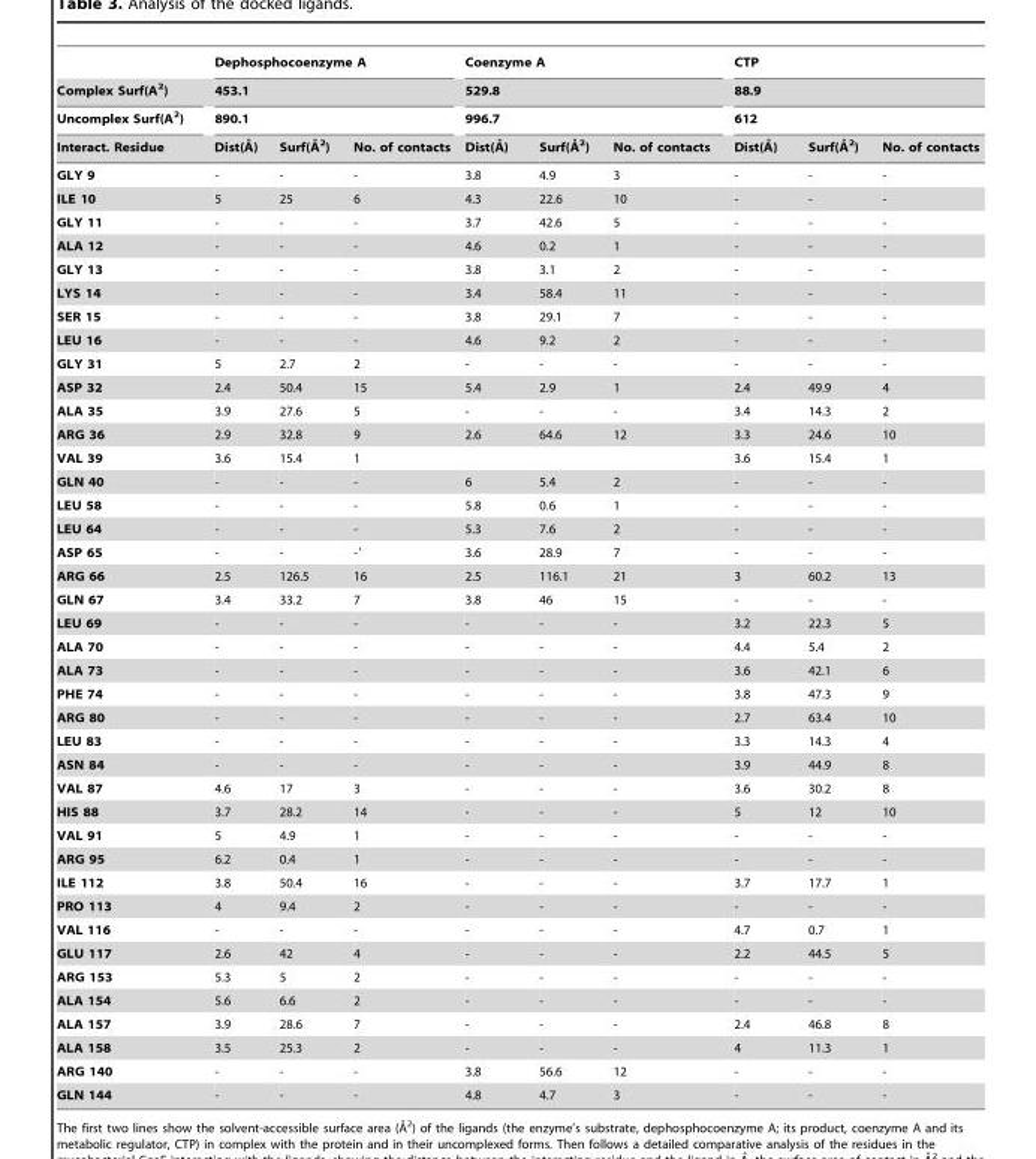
<table><thead><tr><td rowspan="4">Complex Surf(A<sup>2</sup>) Uncomplex Surf(A<sup>2</sup>) Interact. Residue</td><td rowspan="3" colspan="3">Dephosphocoenzyme A 453.1 890.1</td><td rowspan="3" colspan="3">Coenzyme A 529.8 996.7</td><td rowspan="3" colspan="3">CTP 88.9 612</td></tr><tr></tr><tr></tr><tr><td>Dist(A˚ )</td><td>Surf(A˚ 2)</td><td>No. of contacts</td><td>Dist(A˚)</td><td>Surf(A˚ 2)</td><td>No. of contacts</td><td>Dist(A˚ )</td><td>Surf(A˚ 2)</td><td>No. of contacts</td></tr></thead><tbody><tr><td>GLY 9</td><td>-</td><td>-</td><td>-</td><td>3.8</td><td>4.9</td><td>3</td><td>-</td><td>-</td><td>-</td></tr><tr><td>ILE 10</td><td>5</td><td>25</td><td>6</td><td>4.3</td><td>22.6</td><td>10</td><td>-</td><td>-</td><td>-</td></tr><tr><td>GLY 11</td><td>-</td><td>-</td><td>-</td><td>3.7</td><td>42.6</td><td>5</td><td>-</td><td>-</td><td>-</td></tr><tr><td>ALA 12</td><td>-</td><td>-</td><td>-</td><td>4.6</td><td>0.2</td><td>1</td><td>-</td><td>-</td><td>-</td></tr><tr><td>GLY 13</td><td>-</td><td>-</td><td>-</td><td>3.8</td><td>3.1</td><td>2</td><td>-</td><td>-</td><td>-</td></tr><tr><td>LYS 14</td><td>-</td><td>-</td><td>-</td><td>3.4</td><td>58.4</td><td>11</td><td>-</td><td>-</td><td>-</td></tr><tr><td>SER 15</td><td>-</td><td>-</td><td>-</td><td>3.8</td><td>29.1</td><td>7</td><td>-</td><td>-</td><td>-</td></tr><tr><td>LEU 16</td><td>-</td><td>-</td><td>-</td><td>4.6</td><td>9.2</td><td>2</td><td>-</td><td>-</td><td>-</td></tr><tr><td>GLY 31</td><td>5</td><td>2.7</td><td>2</td><td>-</td><td>-</td><td>-</td><td>-</td><td>-</td><td>-</td></tr><tr><td>ASP 32</td><td>2.4</td><td>50.4</td><td>15</td><td>5.4</td><td>2.9</td><td>1</td><td>2.4</td><td>49.9</td><td>4</td></tr><tr><td>ALA 35</td><td>3.9</td><td>27.6</td><td>5</td><td>-</td><td>-</td><td>-</td><td>3.4</td><td>14.3</td><td>2</td></tr><tr><td>ARG 36</td><td>2.9</td><td>32.8</td><td>9</td><td>2.6</td><td>64.6</td><td>12</td><td>3.3</td><td>24.6</td><td>10</td></tr><tr><td>VAL 39</td><td>3.6</td><td>15.4</td><td>1</td><td></td><td></td><td></td><td>3.6</td><td>15.4</td><td>1</td></tr><tr><td>GLN 40</td><td>-</td><td>-</td><td>-</td><td>6</td><td>5.4</td><td>2</td><td>-</td><td>-</td><td>-</td></tr><tr><td>LEU 58</td><td>-</td><td>-</td><td>-</td><td>5.8</td><td>0.6</td><td>1</td><td>-</td><td>-</td><td>-</td></tr><tr><td>LEU 64</td><td>-</td><td>-</td><td>-</td><td>5.3</td><td>7.6</td><td>2</td><td>-</td><td>-</td><td>-</td></tr><tr><td>ASP 65</td><td>-</td><td>-</td><td>-′</td><td>3.6</td><td>28.9</td><td>7</td><td>-</td><td>-</td><td>-</td></tr><tr><td>ARG 66</td><td>2.5</td><td>126.5</td><td>16</td><td>2.5</td><td>116.1</td><td>21</td><td>3</td><td>60.2</td><td>13</td></tr><tr><td>GLN 67</td><td>3.4</td><td>33.2</td><td>7</td><td>3.8</td><td>46</td><td>15</td><td>-</td><td>-</td><td>-</td></tr><tr><td>LEU 69</td><td>-</td><td>-</td><td>-</td><td>-</td><td>-</td><td>-</td><td>3.2</td><td>22.3</td><td>5</td></tr><tr><td>ALA 70</td><td>-</td><td>-</td><td>-</td><td>-</td><td>-</td><td>-</td><td>4.4</td><td>5.4</td><td>2</td></tr><tr><td>ALA 73</td><td>-</td><td>-</td><td>-</td><td>-</td><td>-</td><td>-</td><td>3.6</td><td>42.1</td><td>6</td></tr><tr><td>PHE 74</td><td>-</td><td>-</td><td>-</td><td>-</td><td>-</td><td>-</td><td>3.8</td><td>47.3</td><td>9</td></tr><tr><td>ARG 80</td><td>-</td><td>-</td><td>-</td><td>-</td><td>-</td><td>-</td><td>2.7</td><td>63.4</td><td>10</td></tr><tr><td>LEU 83</td><td>-</td><td>-</td><td>-</td><td>-</td><td>-</td><td>-</td><td>3.3</td><td>14.3</td><td>4</td></tr><tr><td>ASN 84</td><td>-</td><td>-</td><td>-</td><td>-</td><td>-</td><td>-</td><td>3.9</td><td>44.9</td><td>8</td></tr><tr><td>VAL 87</td><td>4.6</td><td>17</td><td>3</td><td>-</td><td>-</td><td>-</td><td>3.6</td><td>30.2</td><td>8</td></tr><tr><td>HIS 88</td><td>3.7</td><td>28.2</td><td>14</td><td>-</td><td>-</td><td>-</td><td>5</td><td>12</td><td>10</td></tr><tr><td>VAL 91</td><td>5</td><td>4.9</td><td>1</td><td>-</td><td>-</td><td>-</td><td>-</td><td>-</td><td>-</td></tr><tr><td>ARG 95</td><td>6.2</td><td>0.4</td><td>1</td><td>-</td><td>-</td><td>-</td><td>-</td><td>-</td><td>-</td></tr><tr><td>ILE 112</td><td>3.8</td><td>50.4</td><td>16</td><td>-</td><td>-</td><td>-</td><td>3.7</td><td>17.7</td><td>1</td></tr><tr><td>PRO 113</td><td>4</td><td>9.4</td><td>2</td><td>-</td><td>-</td><td>-</td><td>-</td><td>-</td><td>-</td></tr><tr><td>VAL 116</td><td>-</td><td>-</td><td>-</td><td>-</td><td>-</td><td>-</td><td>4.7</td><td>0.7</td><td>1</td></tr><tr><td>GLU 117</td><td>2.6</td><td>42</td><td>4</td><td>-</td><td>-</td><td>-</td><td>2.2</td><td>44.5</td><td>5</td></tr><tr><td>ARG 153</td><td>5.3</td><td>5</td><td>2</td><td>-</td><td>-</td><td>-</td><td>-</td><td>-</td><td>-</td></tr><tr><td>ALA 154</td><td>5.6</td><td>6.6</td><td>2</td><td>-</td><td>-</td><td>-</td><td>-</td><td>-</td><td>-</td></tr><tr><td>ALA 157</td><td>3.9</td><td>28.6</td><td>7</td><td>-</td><td>-</td><td>-</td><td>2.4</td><td>46.8</td><td>8</td></tr><tr><td>ALA 158</td><td>3.5</td><td>25.3</td><td>2</td><td>-</td><td>-</td><td>-</td><td>4</td><td>11.3</td><td>1</td></tr><tr><td>ARG 140</td><td>-</td><td>-</td><td>-</td><td>3.8</td><td>56.6</td><td>12</td><td>-</td><td>-</td><td>-</td></tr><tr><td>GLN 144</td><td>-</td><td>-</td><td>-</td><td>4.8</td><td>4.7</td><td>3</td><td>-</td><td>-</td><td>-</td></tr></tbody></table>